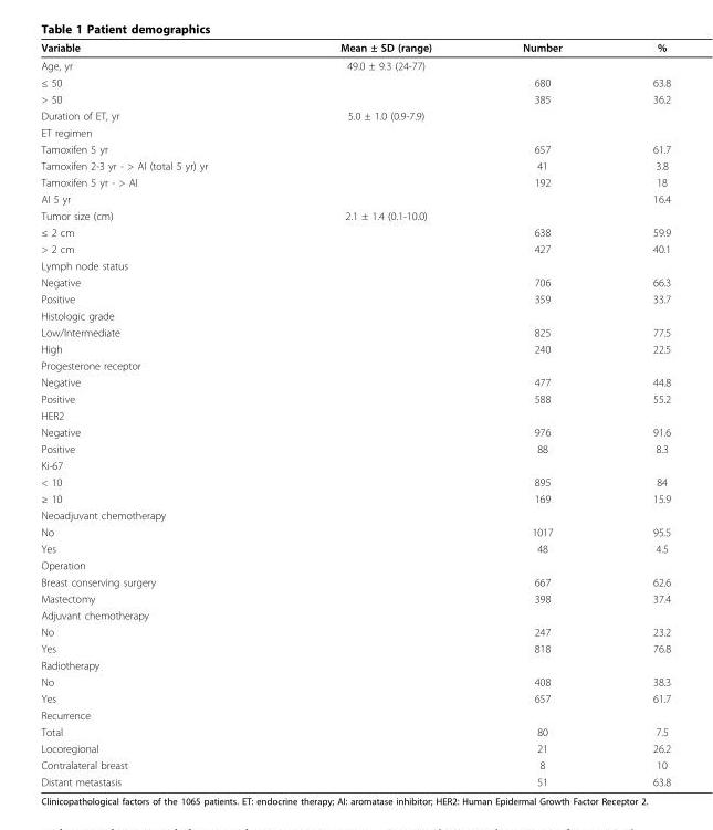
<table><thead><tr><td>Variable</td><td>Mean ± SD (range)</td><td>Number</td><td>%</td></tr></thead><tbody><tr><td>Age, yr</td><td>49.0 ± 9.3 (24-77)</td><td></td><td></td></tr><tr><td>≤ 50</td><td></td><td>680</td><td>63.8</td></tr><tr><td>&gt; 50</td><td></td><td>385</td><td>36.2</td></tr><tr><td>Duration of ET, yr</td><td>5.0 ± 1.0 (0.9-7.9)</td><td></td><td></td></tr><tr><td colspan="4">ET regimen</td></tr><tr><td>Tamoxifen 5 yr</td><td></td><td>657</td><td>61.7</td></tr><tr><td>Tamoxifen 2-3 yr - &gt; AI (total 5 yr) yr</td><td></td><td>41</td><td>3.8</td></tr><tr><td>Tamoxifen 5 yr - &gt; AI</td><td></td><td>192</td><td>18</td></tr><tr><td>AI 5 yr</td><td></td><td></td><td>16.4</td></tr><tr><td>Tumor size (cm)</td><td>2.1 ± 1.4 (0.1-10.0)</td><td></td><td></td></tr><tr><td>≤ 2 cm</td><td></td><td>638</td><td>59.9</td></tr><tr><td>&gt; 2 cm</td><td></td><td>427</td><td>40.1</td></tr><tr><td colspan="4">Lymph node status</td></tr><tr><td>Negative</td><td></td><td>706</td><td>66.3</td></tr><tr><td>Positive</td><td></td><td>359</td><td>33.7</td></tr><tr><td colspan="4">Histologic grade</td></tr><tr><td>Low/Intermediate</td><td></td><td>825</td><td>77.5</td></tr><tr><td>High</td><td></td><td>240</td><td>22.5</td></tr><tr><td colspan="4">Progesterone receptor</td></tr><tr><td>Negative</td><td></td><td>477</td><td>44.8</td></tr><tr><td>Positive</td><td></td><td>588</td><td>55.2</td></tr><tr><td colspan="4">HER2</td></tr><tr><td>Negative</td><td></td><td>976</td><td>91.6</td></tr><tr><td>Positive</td><td></td><td>88</td><td>8.3</td></tr><tr><td colspan="4">Ki-67</td></tr><tr><td>&lt; 10</td><td></td><td>895</td><td>84</td></tr><tr><td>≥ 10</td><td></td><td>169</td><td>15.9</td></tr><tr><td colspan="4">Neoadjuvant chemotherapy</td></tr><tr><td>No</td><td></td><td>1017</td><td>95.5</td></tr><tr><td>Yes</td><td></td><td>48</td><td>4.5</td></tr><tr><td colspan="4">Operation</td></tr><tr><td>Breast conserving surgery</td><td></td><td>667</td><td>62.6</td></tr><tr><td>Mastectomy</td><td></td><td>398</td><td>37.4</td></tr><tr><td colspan="4">Adjuvant chemotherapy</td></tr><tr><td>No</td><td></td><td>247</td><td>23.2</td></tr><tr><td>Yes</td><td></td><td>818</td><td>76.8</td></tr><tr><td colspan="4">Radiotherapy</td></tr><tr><td>No</td><td></td><td>408</td><td>38.3</td></tr><tr><td>Yes</td><td></td><td>657</td><td>61.7</td></tr><tr><td colspan="4">Recurrence</td></tr><tr><td>Total</td><td></td><td>80</td><td>7.5</td></tr><tr><td>Locoregional</td><td></td><td>21</td><td>26.2</td></tr><tr><td>Contralateral breast</td><td></td><td>8</td><td>10</td></tr><tr><td>Distant metastasis</td><td></td><td>51</td><td>63.8</td></tr></tbody></table>